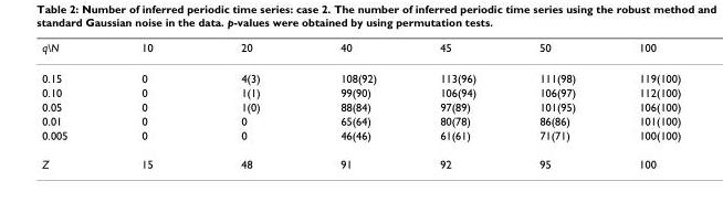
<table><thead><tr><td>q\N</td><td>10</td><td>20</td><td>40</td><td>45</td><td>50</td><td>100</td></tr></thead><tbody><tr><td>0.15</td><td>0</td><td>4(3)</td><td>108(92)</td><td>113(96)</td><td>111(98)</td><td>119(100)</td></tr><tr><td>0.10</td><td>0</td><td>1(1)</td><td>99(90)</td><td>106(94)</td><td>106(97)</td><td>112(100)</td></tr><tr><td>0.05</td><td>0</td><td>1(0)</td><td>88(84)</td><td>97(89)</td><td>101(95)</td><td>106(100)</td></tr><tr><td>0.01</td><td>0</td><td>0</td><td>65(64)</td><td>80(78)</td><td>86(86)</td><td>101(100)</td></tr><tr><td>0.005</td><td>0</td><td>0</td><td>46(46)</td><td>61(61)</td><td>71(71)</td><td>100(100)</td></tr><tr><td>Z</td><td>15</td><td>48</td><td>91</td><td>92</td><td>95</td><td>100</td></tr></tbody></table>